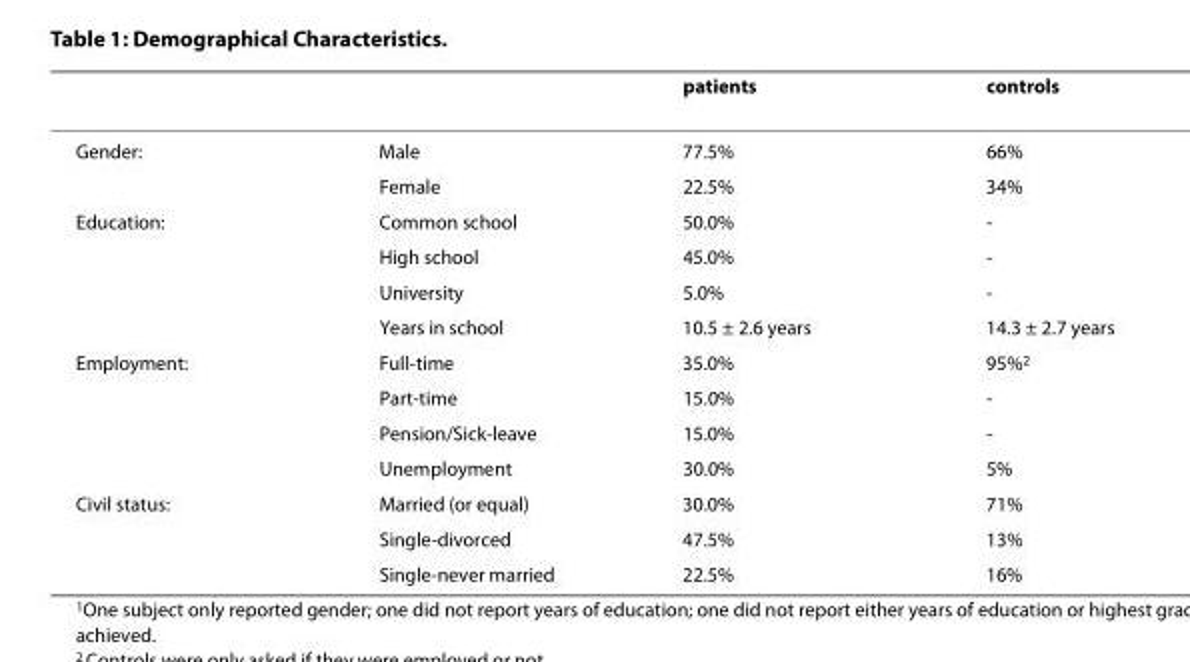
<table><thead><tr><td></td><td></td><td>patients</td><td>controls</td></tr></thead><tbody><tr><td rowspan="2">Gender:</td><td>Male</td><td>77.5%</td><td>66%</td></tr><tr><td>Female</td><td>22.5%</td><td>34%</td></tr><tr><td rowspan="4">Education:</td><td>Common school</td><td>50.0%</td><td>-</td></tr><tr><td>High school</td><td>45.0%</td><td>-</td></tr><tr><td>University</td><td>5.0%</td><td>-</td></tr><tr><td>Years in school</td><td>10.5 ± 2.6 years</td><td>14.3 ± 2.7 years</td></tr><tr><td rowspan="4">Employment:</td><td>Full-time</td><td>35.0%</td><td>95%<sup>2</sup></td></tr><tr><td>Part-time</td><td>15.0%</td><td>-</td></tr><tr><td>Pension/Sick-leave</td><td>15.0%</td><td>-</td></tr><tr><td>Unemployment</td><td>30.0%</td><td>5%</td></tr><tr><td rowspan="3">Civil status:</td><td>Married (or equal)</td><td>30.0%</td><td>71%</td></tr><tr><td>Single-divorced</td><td>47.5%</td><td>13%</td></tr><tr><td>Single-never married</td><td>22.5%</td><td>16%</td></tr></tbody></table>